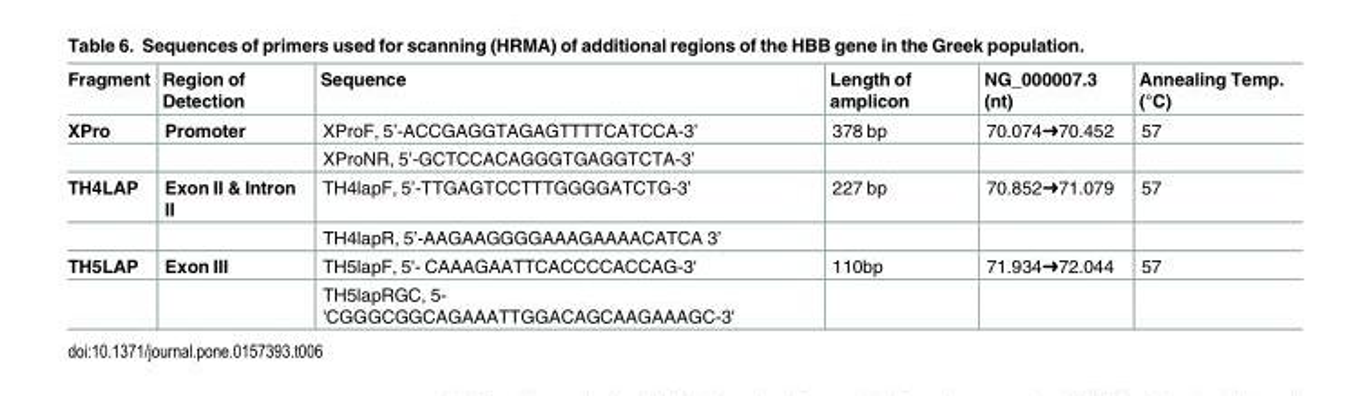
<table><thead><tr><td>Fragment</td><td>Region of Detection</td><td>Sequence</td><td>Length of amplicon</td><td>NG_000007.3 (nt)</td><td>Annealing Temp. (°C)</td></tr></thead><tbody><tr><td rowspan="2">XPro</td><td>Promoter</td><td>XProF, 5’-ACCGAGGTAGAGTTTTCATCCA-3’</td><td>378 bp</td><td>70.074➜70.452</td><td>57</td></tr><tr><td></td><td>XProNR, 5’-GCTCCACAGGGTGAGGTCTA-3’</td><td></td><td></td><td></td></tr><tr><td rowspan="2">TH4LAP</td><td>Exon II &amp; Intron II</td><td>TH4lapF, 5’-TTGAGTCCTTTGGGGATCTG-3’</td><td>227 bp</td><td>70.852➜71.079</td><td>57</td></tr><tr><td></td><td>TH4lapR, 5’-AAGAAGGGGAAAGAAAACATCA 3’</td><td></td><td></td><td></td></tr><tr><td rowspan="2">TH5LAP</td><td>Exon III</td><td>TH5lapF, 5&#x27;- CAAAGAATTCACCCCACCAG-3‘</td><td>110bp</td><td>71.934➜72.044</td><td>57</td></tr><tr><td></td><td>TH5lapRGC, 5- &#x27;CGGGCGGCAGAAATTGGACAGCAAGAAAGC-3&#x27;</td><td></td><td></td><td></td></tr></tbody></table>